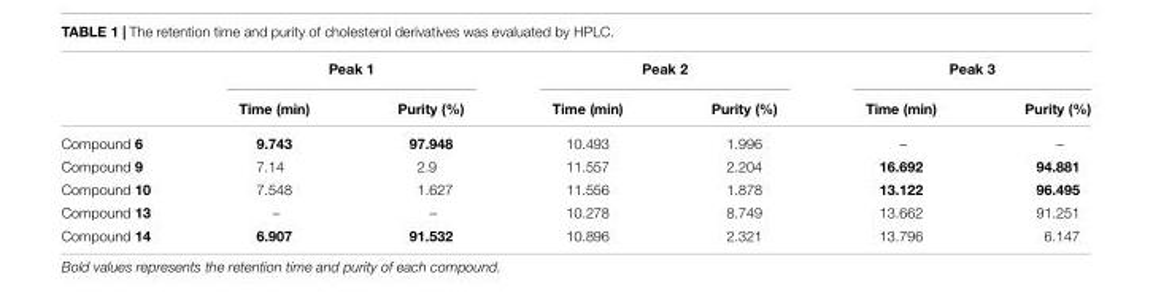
<table><thead><tr><td rowspan="2"></td><td colspan="2">Peak 1</td><td colspan="2">Peak 2</td><td colspan="2">Peak 3</td></tr><tr><td>Time (min)</td><td>Purity (%)</td><td>Time (min)</td><td>Purity (%)</td><td>Time (min)</td><td>Purity (%)</td></tr></thead><tbody><tr><td>Compound 6</td><td>9.743</td><td>97.948</td><td>10.493</td><td>1.996</td><td>–</td><td>–</td></tr><tr><td>Compound 9</td><td>7.14</td><td>2.9</td><td>11.557</td><td>2.204</td><td>16.692</td><td>94.881</td></tr><tr><td>Compound 10</td><td>7.548</td><td>1.627</td><td>11.556</td><td>1.878</td><td>13.122</td><td>96.495</td></tr><tr><td>Compound 13</td><td>–</td><td>–</td><td>10.278</td><td>8.749</td><td>13.662</td><td>91.251</td></tr><tr><td>Compound 14</td><td>6.907</td><td>91.532</td><td>10.896</td><td>2.321</td><td>13.796</td><td>6.147</td></tr></tbody></table>